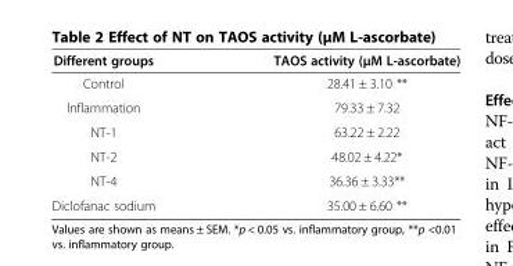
<table><thead><tr><td>Different groups</td><td>TAOS activity (μM L-ascorbate)</td></tr></thead><tbody><tr><td>Control</td><td>28.41 ± 3.10 **</td></tr><tr><td>Inflammation</td><td>79.33 ± 7.32</td></tr><tr><td>NT-1</td><td>63.22 ± 2.22</td></tr><tr><td>NT-2</td><td>48.02 ± 4.22*</td></tr><tr><td>NT-4</td><td>36.36 ± 3.33**</td></tr><tr><td>Diclofanac sodium</td><td>35.00 ± 6.60 **</td></tr></tbody></table>